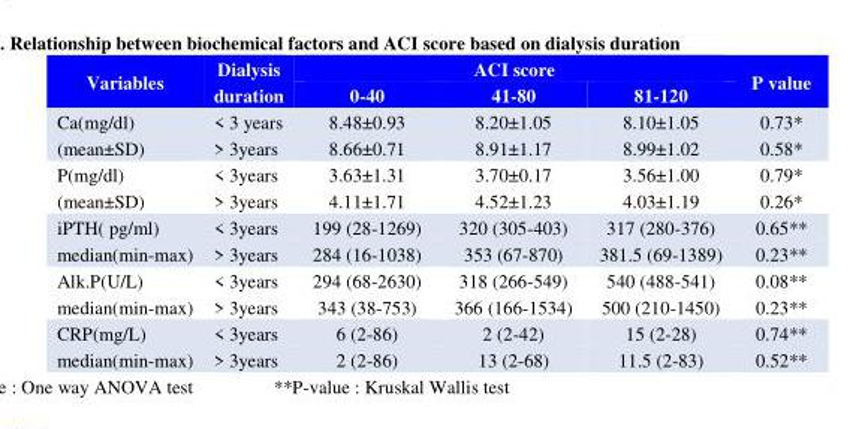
<table><thead><tr><td rowspan="2">Variables</td><td rowspan="2">Dialysis duration</td><td colspan="3">ACI score</td><td rowspan="2">P value</td></tr><tr><td>0-40</td><td>41-80</td><td>81-120</td></tr></thead><tbody><tr><td rowspan="2">Ca(mg/dl) (mean±SD)</td><td>&lt; 3 years</td><td>8.48±0.93</td><td>8.20±1.05</td><td>8.10±1.05</td><td>0.73*</td></tr><tr><td>&gt; 3years</td><td>8.66±0.71</td><td>8.91±1.17</td><td>8.99±1.02</td><td>0.58*</td></tr><tr><td rowspan="2">P(mg/dl) (mean±SD)</td><td>&lt; 3years</td><td>3.63±1.31</td><td>3.70±0.17</td><td>3.56±1.00</td><td>0.79*</td></tr><tr><td>&gt; 3years</td><td>4.11±1.71</td><td>4.52±1.23</td><td>4.03±1.19</td><td>0.26*</td></tr><tr><td rowspan="2">iPTH( pg/ml) median(min-max)</td><td>&lt; 3years</td><td>199 (28-1269)</td><td>320 (305-403)</td><td>317 (280-376)</td><td>0.65**</td></tr><tr><td>&gt; 3years</td><td>284 (16-1038)</td><td>353 (67-870)</td><td>381.5 (69-1389)</td><td>0.23**</td></tr><tr><td rowspan="2">Alk.P(U/L) median(min-max)</td><td>&lt; 3years</td><td>294 (68-2630)</td><td>318 (266-549)</td><td>540 (488-541)</td><td>0.08**</td></tr><tr><td>&gt; 3years</td><td>343 (38-753)</td><td>366 (166-1534)</td><td>500 (210-1450)</td><td>0.23**</td></tr><tr><td rowspan="2">CRP(mg/L) median(min-max)</td><td>&lt; 3years</td><td>6 (2-86)</td><td>2 (2-42)</td><td>15 (2-28)</td><td>0.74**</td></tr><tr><td>&gt; 3years</td><td>2 (2-86)</td><td>13 (2-68)</td><td>11.5 (2-83)</td><td>0.52**</td></tr></tbody></table>